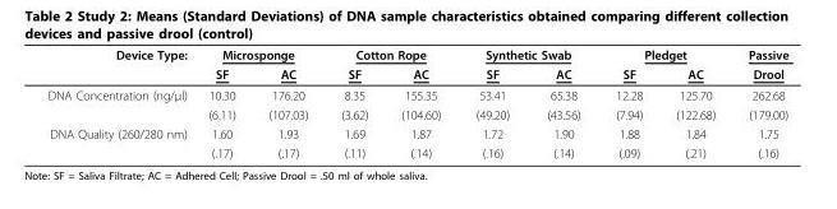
<table><thead><tr><td rowspan="2">Device Type:</td><td colspan="2">Microsponge</td><td colspan="2">Cotton Rope</td><td colspan="2">Synthetic Swab</td><td colspan="2">Pledget</td><td rowspan="2">Passive Drool</td></tr><tr><td>SF</td><td>AC</td><td>SF</td><td>AC</td><td>SF</td><td>AC</td><td>SF</td><td>AC</td></tr></thead><tbody><tr><td rowspan="2">DNA Concentration (ng/μl)</td><td>10.30</td><td>176.20</td><td>8.35</td><td>155.35</td><td>53.41</td><td>65.38</td><td>12.28</td><td>125.70</td><td>262.68</td></tr><tr><td>(6.11)</td><td>(107.03)</td><td>(3.62)</td><td>(104.60)</td><td>(49.20)</td><td>(43.56)</td><td>(7.94)</td><td>(122.68)</td><td>(179.00)</td></tr><tr><td rowspan="2">DNA Quality (260/280 nm)</td><td>1.60</td><td>1.93</td><td>1.69</td><td>1.87</td><td>1.72</td><td>1.90</td><td>1.88</td><td>1.84</td><td>1.75</td></tr><tr><td>(.17)</td><td>(.17)</td><td>(.11)</td><td>(.14)</td><td>(.16)</td><td>(.14)</td><td>(.09)</td><td>(.21)</td><td>(.16)</td></tr></tbody></table>